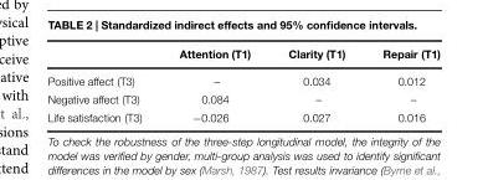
<table><thead><tr><td></td><td>Attention (T1)</td><td>Clarity (T1)</td><td>Repair (T1)</td></tr></thead><tbody><tr><td>Positive affect (T3)</td><td>–</td><td>0.034</td><td>0.012</td></tr><tr><td>Negative affect (T3)</td><td>0.084</td><td>–</td><td>–</td></tr><tr><td>Life satisfaction (T3)</td><td>−0.026</td><td>0.027</td><td>0.016</td></tr></tbody></table>